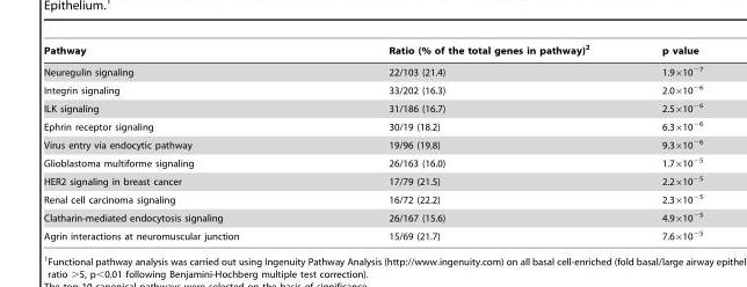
<table><thead><tr><td>Pathway</td><td>Ratio (% of the total genes in pathway)<sup>2</sup></td><td>p value</td></tr></thead><tbody><tr><td>Neuregulin signaling</td><td>22/103 (21.4)</td><td>1.9×10<sup>−7</sup></td></tr><tr><td>Integrin signaling</td><td>33/202 (16.3)</td><td>2.0×10<sup>−6</sup></td></tr><tr><td>ILK signaling</td><td>31/186 (16.7)</td><td>2.5×10<sup>−6</sup></td></tr><tr><td>Ephrin receptor signaling</td><td>30/19 (18.2)</td><td>6.3×10<sup>−6</sup></td></tr><tr><td>Virus entry via endocytic pathway</td><td>19/96 (19.8)</td><td>9.3×10<sup>−6</sup></td></tr><tr><td>Glioblastoma multiforme signaling</td><td>26/163 (16.0)</td><td>1.7×10<sup>−5</sup></td></tr><tr><td>HER2 signaling in breast cancer</td><td>17/79 (21.5)</td><td>2.2×10<sup>−5</sup></td></tr><tr><td>Renal cell carcinoma signaling</td><td>16/72 (22.2)</td><td>2.3×10<sup>−5</sup></td></tr><tr><td>Clatharin-mediated endocytosis signaling</td><td>26/167 (15.6)</td><td>4.9×10<sup>−5</sup></td></tr><tr><td>Agrin interactions at neuromuscular junction</td><td>15/69 (21.7)</td><td>7.6×10<sup>−5</sup></td></tr></tbody></table>